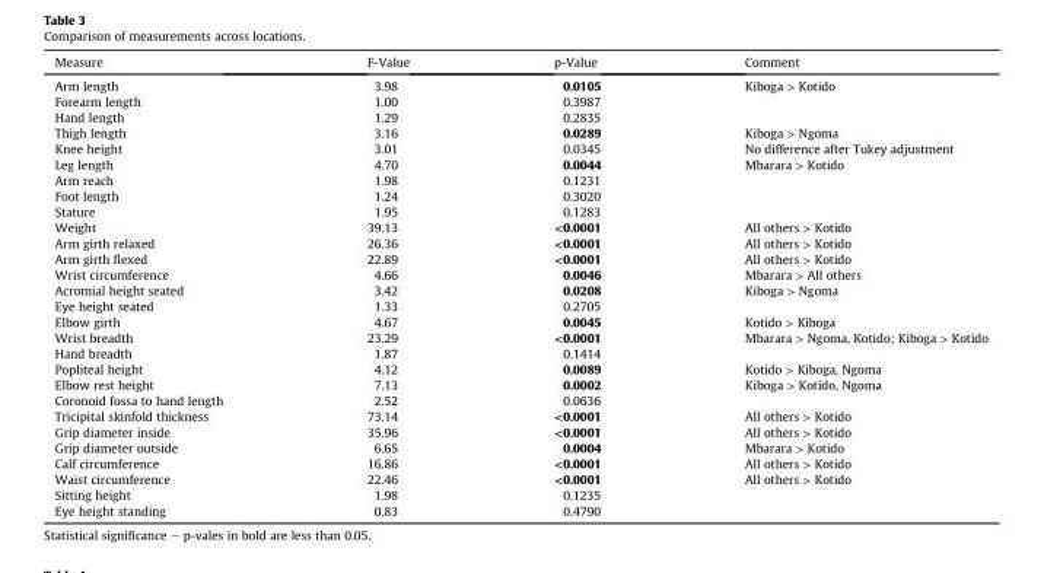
<table><thead><tr><td>Measure</td><td>F-Value</td><td>p-Value</td><td>Comment</td></tr></thead><tbody><tr><td>Arm length</td><td>3.98</td><td>0.0105</td><td>Kiboga &gt; Kotido</td></tr><tr><td>Forearm length</td><td>1.00</td><td>0.3987</td><td></td></tr><tr><td>Hand length</td><td>1.29</td><td>0.2835</td><td></td></tr><tr><td>Thigh length</td><td>3.16</td><td>0.0289</td><td>Kiboga &gt; Ngoma</td></tr><tr><td>Knee height</td><td>3.01</td><td>0.0345</td><td>No difference after Tukey adjustment</td></tr><tr><td>Leg length</td><td>4.70</td><td>0.0044</td><td>Mbarara &gt; Kotido</td></tr><tr><td>Arm reach</td><td>1.98</td><td>0.1231</td><td></td></tr><tr><td>Foot length</td><td>1.24</td><td>0.3020</td><td></td></tr><tr><td>Stature</td><td>1.95</td><td>0.1283</td><td></td></tr><tr><td>Weight</td><td>39.13</td><td>&lt;0.0001</td><td>All others &gt; Kotido</td></tr><tr><td>Arm girth relaxed</td><td>26.36</td><td>&lt;0.0001</td><td>All others &gt; Kotido</td></tr><tr><td>Arm girth flexed</td><td>22.89</td><td>&lt;0.0001</td><td>All others &gt; Kotido</td></tr><tr><td>Wrist circumference</td><td>4.66</td><td>0.0046</td><td>Mbarara &gt; All others</td></tr><tr><td>Acromial height seated</td><td>3.42</td><td>0.0208</td><td>Kiboga &gt; Ngoma</td></tr><tr><td>Eye height seated</td><td>1.33</td><td>0.2705</td><td></td></tr><tr><td>Elbow girth</td><td>4.67</td><td>0.0045</td><td>Kotido &gt; Kiboga</td></tr><tr><td>Wrist breadth</td><td>23.29</td><td>&lt;0.0001</td><td>Mbarara &gt; Ngoma, Kotido; Kiboga &gt; Kotido</td></tr><tr><td>Hand breadth</td><td>1.87</td><td>0.1414</td><td></td></tr><tr><td>Popliteal height</td><td>4.12</td><td>0.0089</td><td>Kotido &gt; Kiboga, Ngoma</td></tr><tr><td>Elbow rest height</td><td>7.13</td><td>0.0002</td><td>Kiboga &gt; Kotido, Ngoma</td></tr><tr><td>Coronoid fossa to hand length</td><td>2.52</td><td>0.0636</td><td></td></tr><tr><td>Tricipital skinfold thickness</td><td>73.14</td><td>&lt;0.0001</td><td>All others &gt; Kotido</td></tr><tr><td>Grip diameter inside</td><td>35.96</td><td>&lt;0.0001</td><td>All others &gt; Kotido</td></tr><tr><td>Grip diameter outside</td><td>6.65</td><td>0.0004</td><td>Mbarara &gt; Kotido</td></tr><tr><td>Calf circumference</td><td>16.86</td><td>&lt;0.0001</td><td>All others &gt; Kotido</td></tr><tr><td>Waist circumference</td><td>22.46</td><td>&lt;0.0001</td><td>All others &gt; Kotido</td></tr><tr><td>Sitting height</td><td>1.98</td><td>0.1235</td><td></td></tr><tr><td>Eye height standing</td><td>0.83</td><td>0.4790</td><td></td></tr></tbody></table>